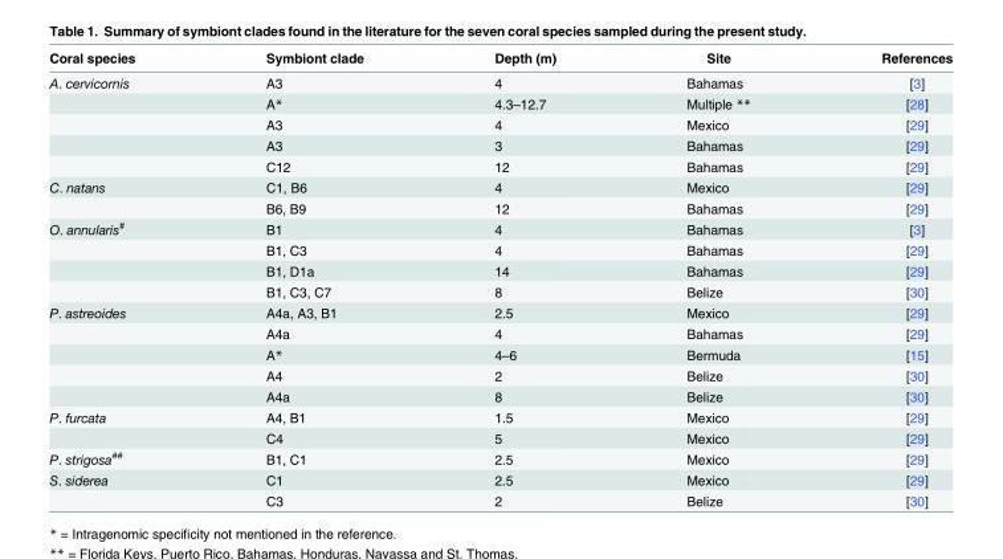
<table><thead><tr><td>Coral species</td><td>Symbiont clade</td><td>Depth (m)</td><td>Site</td><td>References</td></tr></thead><tbody><tr><td rowspan="5">A. cervicornis</td><td>A3</td><td>4</td><td>Bahamas</td><td>[3]</td></tr><tr><td>A*</td><td>4.3–12.7</td><td>Multiple **</td><td>[28]</td></tr><tr><td>A3</td><td>4</td><td>Mexico</td><td>[29]</td></tr><tr><td>A3</td><td>3</td><td>Bahamas</td><td>[29]</td></tr><tr><td>C12</td><td>12</td><td>Bahamas</td><td>[29]</td></tr><tr><td rowspan="2">C. natans</td><td>C1, B6</td><td>4</td><td>Mexico</td><td>[29]</td></tr><tr><td>B6, B9</td><td>12</td><td>Bahamas</td><td>[29]</td></tr><tr><td rowspan="4">O. annularis<sup>#</sup></td><td>B1</td><td>4</td><td>Bahamas</td><td>[3]</td></tr><tr><td>B1, C3</td><td>4</td><td>Bahamas</td><td>[29]</td></tr><tr><td>B1, D1a</td><td>14</td><td>Bahamas</td><td>[29]</td></tr><tr><td>B1, C3, C7</td><td>8</td><td>Belize</td><td>[30]</td></tr><tr><td rowspan="5">P. astreoides</td><td>A4a, A3, B1</td><td>2.5</td><td>Mexico</td><td>[29]</td></tr><tr><td>A4a</td><td>4</td><td>Bahamas</td><td>[29]</td></tr><tr><td>A*</td><td>4–6</td><td>Bermuda</td><td>[15]</td></tr><tr><td>A4</td><td>2</td><td>Belize</td><td>[30]</td></tr><tr><td>A4a</td><td>8</td><td>Belize</td><td>[30]</td></tr><tr><td rowspan="2">P. furcata</td><td>A4, B1</td><td>1.5</td><td>Mexico</td><td>[29]</td></tr><tr><td>C4</td><td>5</td><td>Mexico</td><td>[29]</td></tr><tr><td>P. strigosa<sup>##</sup></td><td>B1, C1</td><td>2.5</td><td>Mexico</td><td>[29]</td></tr><tr><td rowspan="2">S. siderea</td><td>C1</td><td>2.5</td><td>Mexico</td><td>[29]</td></tr><tr><td>C3</td><td>2</td><td>Belize</td><td>[30]</td></tr></tbody></table>